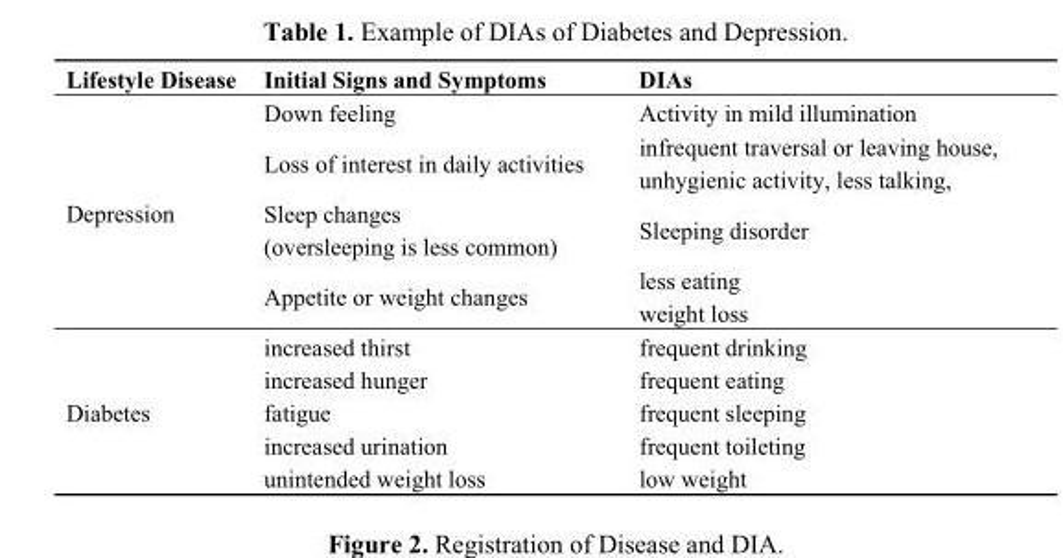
<table><thead><tr><td>Lifestyle Disease</td><td>Initial Signs and Symptoms</td><td>DIAs</td></tr></thead><tbody><tr><td rowspan="4">Depression</td><td>Down feeling</td><td>Activity in mild illumination</td></tr><tr><td>Loss of interest in daily activities</td><td>infrequent traversal or leaving house, unhygienic activity, less talking,</td></tr><tr><td>Sleep changes (oversleeping is less common)</td><td>Sleeping disorder</td></tr><tr><td>Appetite or weight changes</td><td>less eating weight loss</td></tr><tr><td rowspan="5">Diabetes</td><td>increased thirst</td><td>frequent drinking</td></tr><tr><td>increased hunger</td><td>frequent eating</td></tr><tr><td>fatigue</td><td>frequent sleeping</td></tr><tr><td>increased urination</td><td>frequent toileting</td></tr><tr><td>unintended weight loss</td><td>low weight</td></tr></tbody></table>